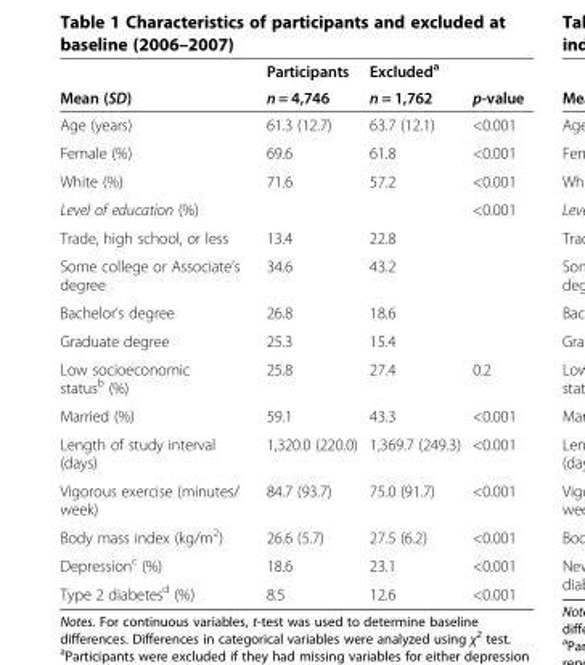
<table><thead><tr><td rowspan="2">Mean (SD)</td><td rowspan="2">Participants n = 4,746</td><td rowspan="2">Excluded<sup>a</sup> n = 1,762</td><td rowspan="2">p-value</td></tr><tr></tr></thead><tbody><tr><td>Age (years)</td><td>61.3 (12.7)</td><td>63.7 (12.1)</td><td>&lt;0.001</td></tr><tr><td>Female (%)</td><td>69.6</td><td>61.8</td><td>&lt;0.001</td></tr><tr><td>White (%)</td><td>71.6</td><td>57.2</td><td>&lt;0.001</td></tr><tr><td>Level of education (%)</td><td></td><td></td><td>&lt;0.001</td></tr><tr><td>Trade, high school, or less</td><td>13.4</td><td>22.8</td><td></td></tr><tr><td>Some college or Associate’s degree</td><td>34.6</td><td>43.2</td><td></td></tr><tr><td>Bachelor’s degree</td><td>26.8</td><td>18.6</td><td></td></tr><tr><td>Graduate degree</td><td>25.3</td><td>15.4</td><td></td></tr><tr><td>Low socioeconomic status<sup>b</sup> (%)</td><td>25.8</td><td>27.4</td><td>0.2</td></tr><tr><td>Married (%)</td><td>59.1</td><td>43.3</td><td>&lt;0.001</td></tr><tr><td>Length of study interval (days)</td><td>1,320.0 (220.0)</td><td>1,369.7 (249.3)</td><td>&lt;0.001</td></tr><tr><td>Vigorous exercise (minutes/ week)</td><td>84.7 (93.7)</td><td>75.0 (91.7)</td><td>&lt;0.001</td></tr><tr><td>Body mass index (kg/m<sup>2</sup>)</td><td>26.6 (5.7)</td><td>27.5 (6.2)</td><td>&lt;0.001</td></tr><tr><td>Depression<sup>c</sup> (%)</td><td>18.6</td><td>23.1</td><td>&lt;0.001</td></tr><tr><td>Type 2 diabetes<sup>d</sup> (%)</td><td>8.5</td><td>12.6</td><td>&lt;0.001</td></tr></tbody></table>